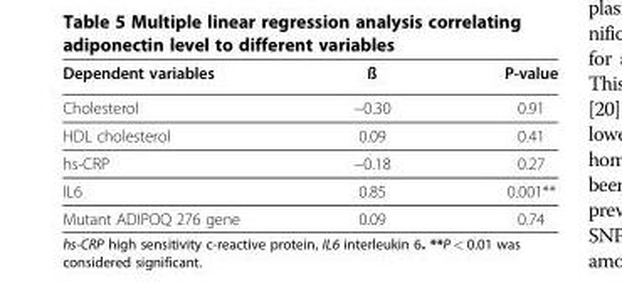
<table><thead><tr><td>Dependent variables</td><td>ß</td><td>P-value</td></tr></thead><tbody><tr><td>Cholesterol</td><td>−0.30</td><td>0.91</td></tr><tr><td>HDL cholesterol</td><td>0.09</td><td>0.41</td></tr><tr><td>hs-CRP</td><td>−0.18</td><td>0.27</td></tr><tr><td>IL6</td><td>0.85</td><td>0.001**</td></tr><tr><td>Mutant ADIPOQ 276 gene</td><td>0.09</td><td>0.74</td></tr></tbody></table>